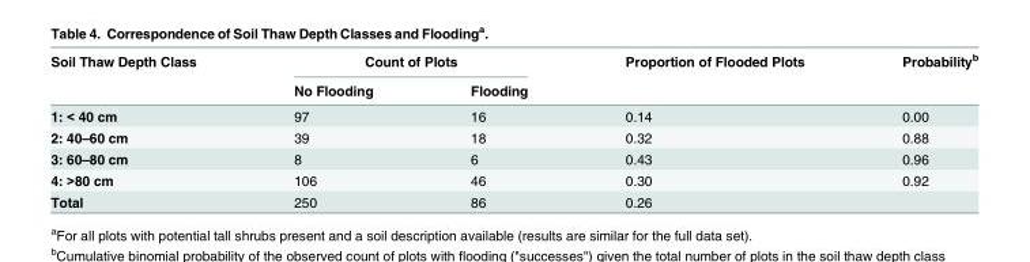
<table><thead><tr><td rowspan="2">Soil Thaw Depth Class</td><td colspan="2">Count of Plots</td><td rowspan="2">Proportion of Flooded Plots</td><td rowspan="2">Probability<sup>b</sup></td></tr><tr><td>No Flooding</td><td>Flooding</td></tr></thead><tbody><tr><td>1: &lt; 40 cm</td><td>97</td><td>16</td><td>0.14</td><td>0.00</td></tr><tr><td>2: 40–60 cm</td><td>39</td><td>18</td><td>0.32</td><td>0.88</td></tr><tr><td>3: 60–80 cm</td><td>8</td><td>6</td><td>0.43</td><td>0.96</td></tr><tr><td>4: &gt;80 cm</td><td>106</td><td>46</td><td>0.30</td><td>0.92</td></tr><tr><td>Total</td><td>250</td><td>86</td><td>0.26</td><td></td></tr></tbody></table>